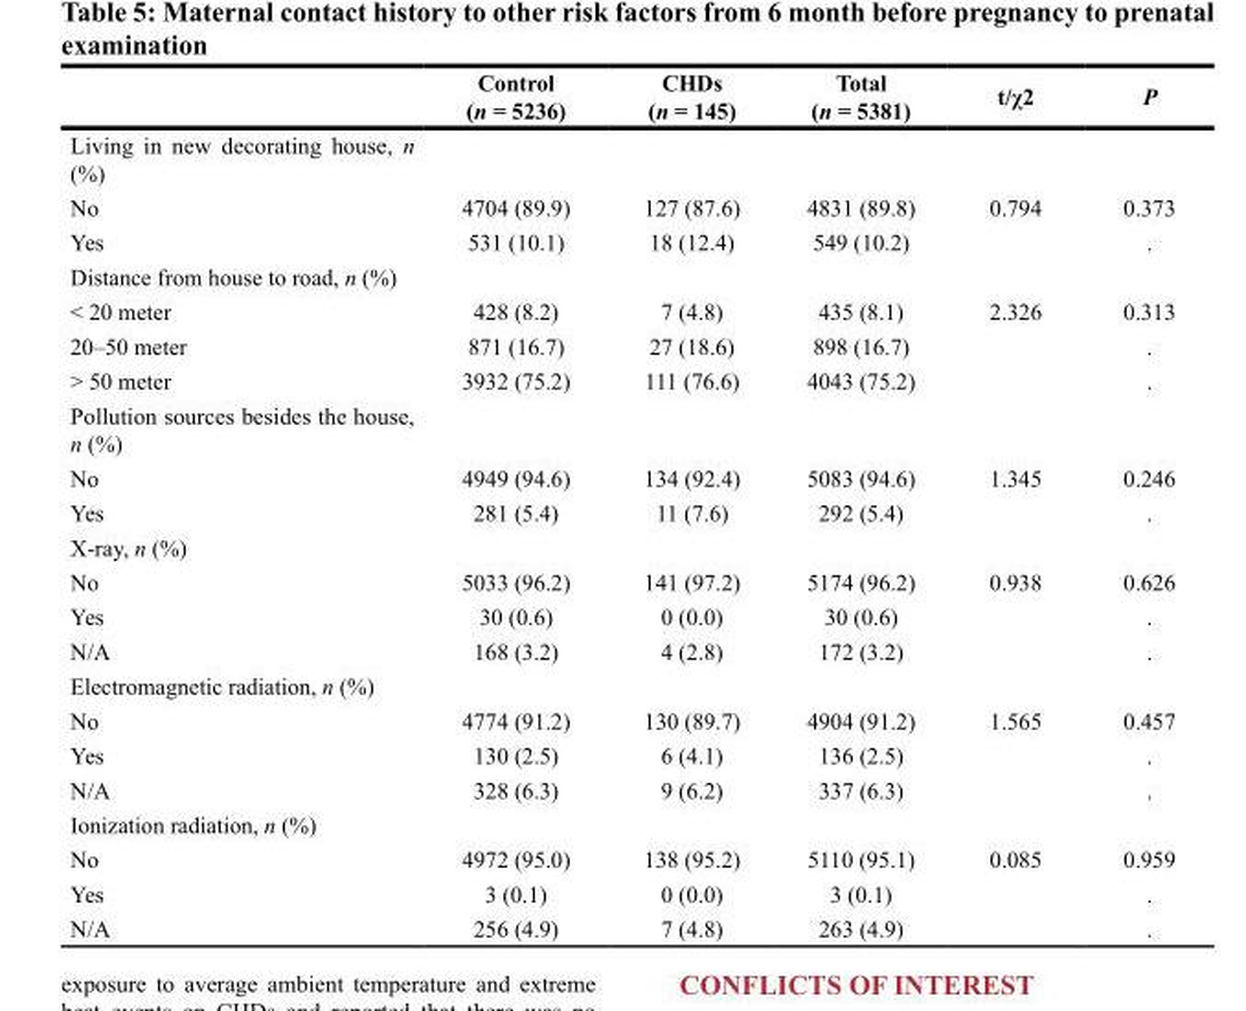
<table><thead><tr><td></td><td>Control (n = 5236)</td><td>CHDs (n = 145)</td><td>Total (n = 5381)</td><td>t/χ2</td><td>P</td></tr></thead><tbody><tr><td colspan="6">Living in new decorating house, n (%)</td></tr><tr><td>No</td><td>4704 (89.9)</td><td>127 (87.6)</td><td>4831 (89.8)</td><td>0.794</td><td>0.373</td></tr><tr><td>Yes</td><td>531 (10.1)</td><td>18 (12.4)</td><td>549 (10.2)</td><td></td><td>.</td></tr><tr><td colspan="6">Distance from house to road, n (%)</td></tr><tr><td>&lt; 20 meter</td><td>428 (8.2)</td><td>7 (4.8)</td><td>435 (8.1)</td><td>2.326</td><td>0.313</td></tr><tr><td>20–50 meter</td><td>871 (16.7)</td><td>27 (18.6)</td><td>898 (16.7)</td><td></td><td>.</td></tr><tr><td>&gt; 50 meter</td><td>3932 (75.2)</td><td>111 (76.6)</td><td>4043 (75.2)</td><td></td><td>.</td></tr><tr><td colspan="6">Pollution sources besides the house, n (%)</td></tr><tr><td>No</td><td>4949 (94.6)</td><td>134 (92.4)</td><td>5083 (94.6)</td><td>1.345</td><td>0.246</td></tr><tr><td>Yes</td><td>281 (5.4)</td><td>11 (7.6)</td><td>292 (5.4)</td><td></td><td>.</td></tr><tr><td colspan="6">X-ray, n (%)</td></tr><tr><td>No</td><td>5033 (96.2)</td><td>141 (97.2)</td><td>5174 (96.2)</td><td>0.938</td><td>0.626</td></tr><tr><td>Yes</td><td>30 (0.6)</td><td>0 (0.0)</td><td>30 (0.6)</td><td></td><td>.</td></tr><tr><td>N/A</td><td>168 (3.2)</td><td>4 (2.8)</td><td>172 (3.2)</td><td></td><td>.</td></tr><tr><td colspan="6">Electromagnetic radiation, n (%)</td></tr><tr><td>No</td><td>4774 (91.2)</td><td>130 (89.7)</td><td>4904 (91.2)</td><td>1.565</td><td>0.457</td></tr><tr><td>Yes</td><td>130 (2.5)</td><td>6 (4.1)</td><td>136 (2.5)</td><td></td><td>.</td></tr><tr><td>N/A</td><td>328 (6.3)</td><td>9 (6.2)</td><td>337 (6.3)</td><td></td><td>.</td></tr><tr><td colspan="6">Ionization radiation, n (%)</td></tr><tr><td>No</td><td>4972 (95.0)</td><td>138 (95.2)</td><td>5110 (95.1)</td><td>0.085</td><td>0.959</td></tr><tr><td>Yes</td><td>3 (0.1)</td><td>0 (0.0)</td><td>3 (0.1)</td><td></td><td>.</td></tr><tr><td>N/A</td><td>256 (4.9)</td><td>7 (4.8)</td><td>263 (4.9)</td><td></td><td>.</td></tr></tbody></table>